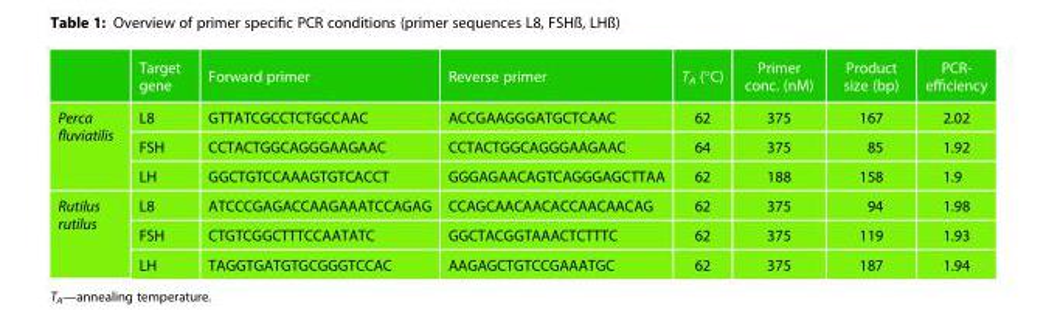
<table><thead><tr><td></td><td>Target gene</td><td>Forward primer</td><td>Reverse primer</td><td>T<sub>A</sub> (°C)</td><td>Primer conc. (nM)</td><td>Product size (bp)</td><td>PCR- efficiency</td></tr></thead><tbody><tr><td rowspan="3">Perca fluviatilis</td><td>L8</td><td>GTTATCGCCTCTGCCAAC</td><td>ACCGAAGGGATGCTCAAC</td><td>62</td><td>375</td><td>167</td><td>2.02</td></tr><tr><td>FSH</td><td>CCTACTGGCAGGGAAGAAC</td><td>CCTACTGGCAGGGAAGAAC</td><td>64</td><td>375</td><td>85</td><td>1.92</td></tr><tr><td>LH</td><td>GGCTGTCCAAAGTGTCACCT</td><td>GGGAGAACAGTCAGGGAGCTTAA</td><td>62</td><td>188</td><td>158</td><td>1.9</td></tr><tr><td rowspan="3">Rutilus rutilus</td><td>L8</td><td>ATCCCGAGACCAAGAAATCCAGAG</td><td>CCAGCAACAACACCAACAACAG</td><td>62</td><td>375</td><td>94</td><td>1.98</td></tr><tr><td>FSH</td><td>CTGTCGGCTTTCCAATATC</td><td>GGCTACGGTAAACTCTTTC</td><td>62</td><td>375</td><td>119</td><td>1.93</td></tr><tr><td>LH</td><td>TAGGTGATGTGCGGGTCCAC</td><td>AAGAGCTGTCCGAAATGC</td><td>62</td><td>375</td><td>187</td><td>1.94</td></tr></tbody></table>